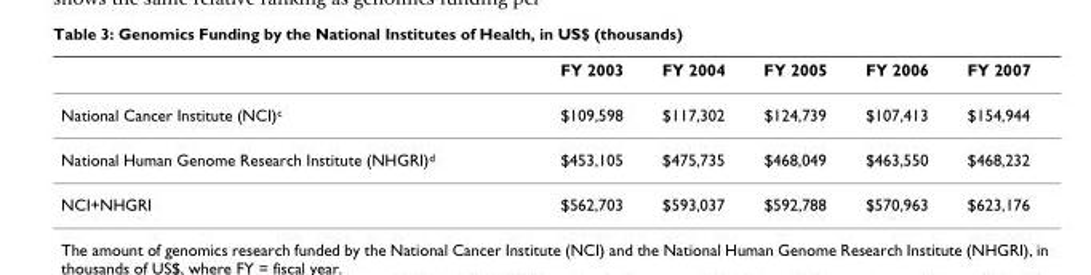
<table><thead><tr><td></td><td>FY 2003</td><td>FY 2004</td><td>FY 2005</td><td>FY 2006</td><td>FY 2007</td></tr></thead><tbody><tr><td>National Cancer Institute (NCI)<sup>c</sup></td><td>$109,598</td><td>$117,302</td><td>$124,739</td><td>$107,413</td><td>$154,944</td></tr><tr><td>National Human Genome Research Institute (NHGRI)<sup>d</sup></td><td>$453,105</td><td>$475,735</td><td>$468,049</td><td>$463,550</td><td>$468,232</td></tr><tr><td>NCI+NHGRI</td><td>$562,703</td><td>$593,037</td><td>$592,788</td><td>$570,963</td><td>$623,176</td></tr></tbody></table>